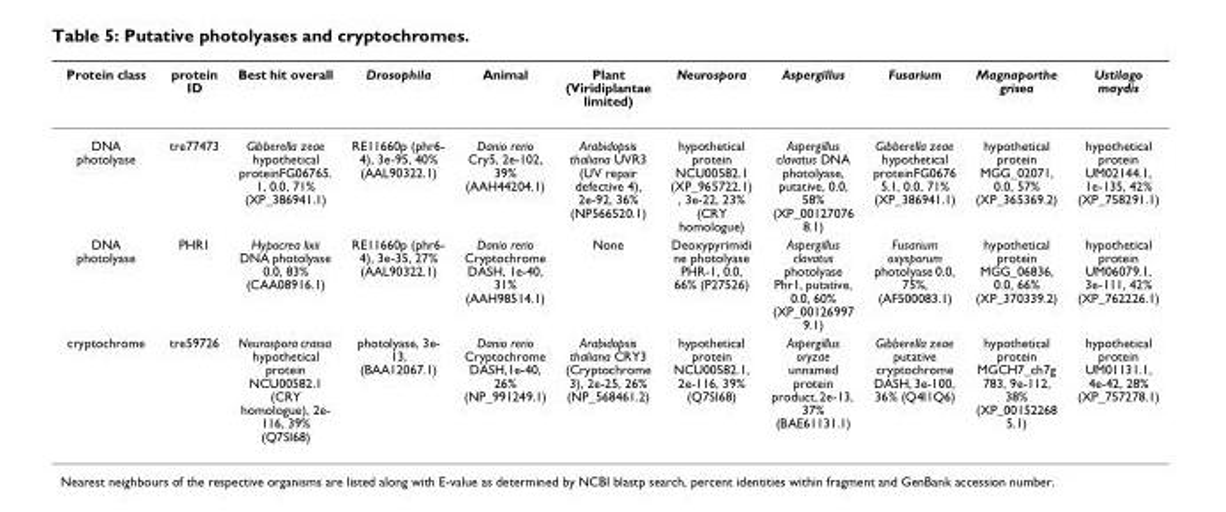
<table><thead><tr><td>Protein class</td><td>protein ID</td><td>Best hit overall</td><td>Drosophila</td><td>Animal</td><td>Plant (Viridiplantae limited)</td><td>Neurospora</td><td>Aspergillus</td><td>Fusarium</td><td>Magnaporthe grisea</td><td>Ustilago maydis</td></tr></thead><tbody><tr><td>DNA photolyase</td><td>tre77473</td><td>Gibberella zeae hypothetical proteinFG06765. 1, 0.0, 71% (XP_386941.1)</td><td>RE11660p (phr6- 4), 3e-95, 40% (AAL90322.1)</td><td>Danio rerio Cry5, 2e-102, 39% (AAH44204.1)</td><td>Arabidopsis thaliana UVR3 (UV repair defective 4), 2e-92, 36% (NP566520.1)</td><td>hypothetical protein NCU00582.1 (XP_965722.1) , 3e-22, 23% (CRY homologue)</td><td>Aspergillus clavatus DNA photolyase, putative, 0.0, 58% (XP_00127076 8.1)</td><td>Gibberella zeae hypothetical proteinFG0676 5.1, 0.0, 71% (XP_386941.1)</td><td>hypothetical protein MGG_02071, 0.0, 57% (XP_365369.2)</td><td>hypothetical protein UM02144.1, 1e-135, 42% (XP_758291.1)</td></tr><tr><td>DNA photolyase</td><td>PHR1</td><td>Hypocrea lixii DNA photolyase 0.0, 83% (CAA08916.1)</td><td>RE11660p (phr6- 4), 3e-35, 27% (AAL90322.1)</td><td>Danio rerio Cryptochrome DASH, 1e-40, 31% (AAH98514.1)</td><td>None</td><td>Deoxypyrimidi ne photolyase PHR-1, 0.0, 66% (P27526)</td><td>Aspergillus clavatus photolyase Phr1, putative, 0.0, 60% (XP_00126997 9.1)</td><td>Fusarium oxysporum photolyase 0.0, 75%, (AF500083.1)</td><td>hypothetical protein MGG_06836, 0.0, 66% (XP_370339.2)</td><td>hypothetical protein UM06079.1, 3e-111, 42% (XP_762226.1)</td></tr><tr><td>cryptochrome</td><td>tre59726</td><td>Neurospora crassa hypothetical protein NCU00582.1 (CRY homologue), 2e- 116, 39% (Q7SI68)</td><td>photolyase, 3e- 13, (BAA12067.1)</td><td>Danio rerio Cryptochrome DASH,1e-40, 26% (NP_991249.1)</td><td>Arabidopsis thaliana CRY3 (Cryptochrome 3), 2e-25, 26% (NP_568461.2)</td><td>hypothetical protein NCU00582.1, 2e-116, 39% (Q7SI68)</td><td>Aspergillus oryzae unnamed protein product, 2e-13, 37% (BAE61131.1)</td><td>Gibberella zeae putative cryptochrome DASH, 3e-100, 36% (Q4I1Q6)</td><td>hypothetical protein MGCH7_ch7g 783, 9e-112, 38% (XP_00152268 5.1)</td><td>hypothetical protein UM01131.1, 4e-42, 28% (XP_757278.1)</td></tr></tbody></table>